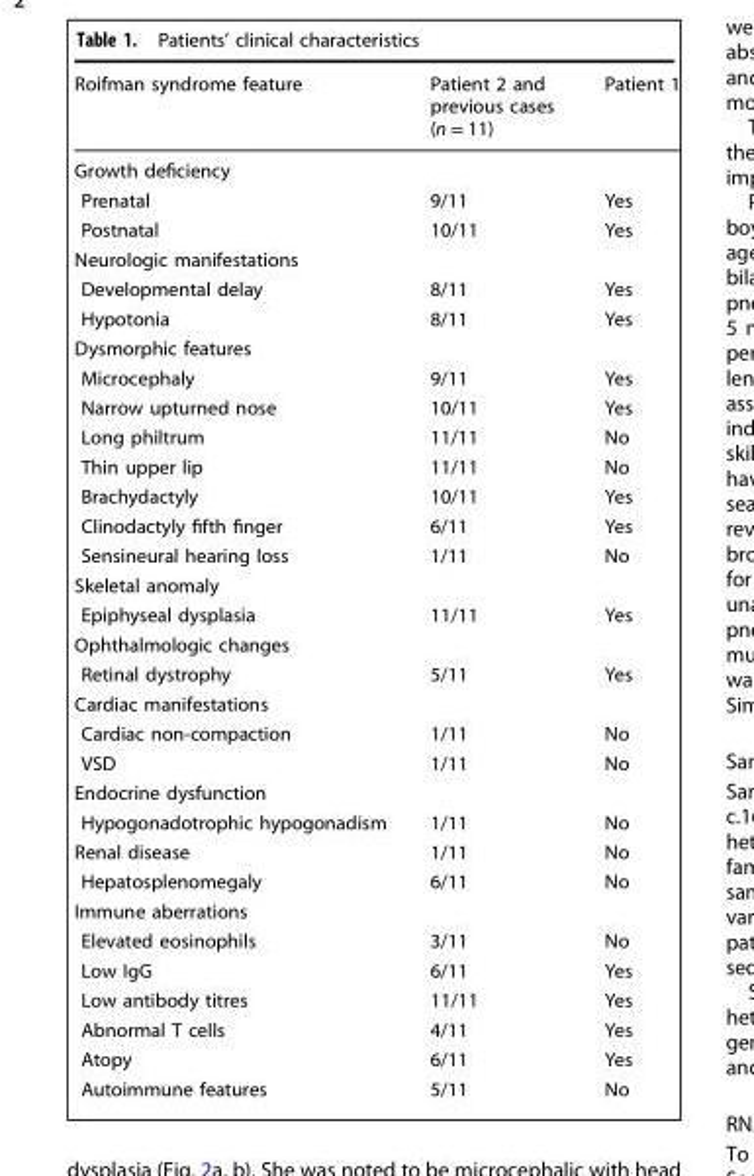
<table><thead><tr><td>Roifman syndrome feature</td><td>Patient 2 and previous cases (n = 11)</td><td>Patient 1</td></tr></thead><tbody><tr><td colspan="3">Growth deficiency</td></tr><tr><td>Prenatal</td><td>9/11</td><td>Yes</td></tr><tr><td>Postnatal</td><td>10/11</td><td>Yes</td></tr><tr><td colspan="3">Neurologic manifestations</td></tr><tr><td>Developmental delay</td><td>8/11</td><td>Yes</td></tr><tr><td>Hypotonia</td><td>8/11</td><td>Yes</td></tr><tr><td colspan="3">Dysmorphic features</td></tr><tr><td>Microcephaly</td><td>9/11</td><td>Yes</td></tr><tr><td>Narrow upturned nose</td><td>10/11</td><td>Yes</td></tr><tr><td>Long philtrum</td><td>11/11</td><td>No</td></tr><tr><td>Thin upper lip</td><td>11/11</td><td>No</td></tr><tr><td>Brachydactyly</td><td>10/11</td><td>Yes</td></tr><tr><td>Clinodactyly fifth finger</td><td>6/11</td><td>Yes</td></tr><tr><td>Sensineural hearing loss</td><td>1/11</td><td>No</td></tr><tr><td colspan="3">Skeletal anomaly</td></tr><tr><td>Epiphyseal dysplasia</td><td>11/11</td><td>Yes</td></tr><tr><td colspan="3">Ophthalmologic changes</td></tr><tr><td>Retinal dystrophy</td><td>5/11</td><td>Yes</td></tr><tr><td colspan="3">Cardiac manifestations</td></tr><tr><td>Cardiac non-compaction</td><td>1/11</td><td>No</td></tr><tr><td>VSD</td><td>1/11</td><td>No</td></tr><tr><td colspan="3">Endocrine dysfunction</td></tr><tr><td>Hypogonadotrophic hypogonadism</td><td>1/11</td><td>No</td></tr><tr><td>Renal disease</td><td>1/11</td><td>No</td></tr><tr><td>Hepatosplenomegaly</td><td>6/11</td><td>No</td></tr><tr><td colspan="3">Immune aberrations</td></tr><tr><td>Elevated eosinophils</td><td>3/11</td><td>No</td></tr><tr><td>Low IgG</td><td>6/11</td><td>Yes</td></tr><tr><td>Low antibody titres</td><td>11/11</td><td>Yes</td></tr><tr><td>Abnormal T cells</td><td>4/11</td><td>Yes</td></tr><tr><td>Atopy</td><td>6/11</td><td>Yes</td></tr><tr><td>Autoimmune features</td><td>5/11</td><td>No</td></tr></tbody></table>